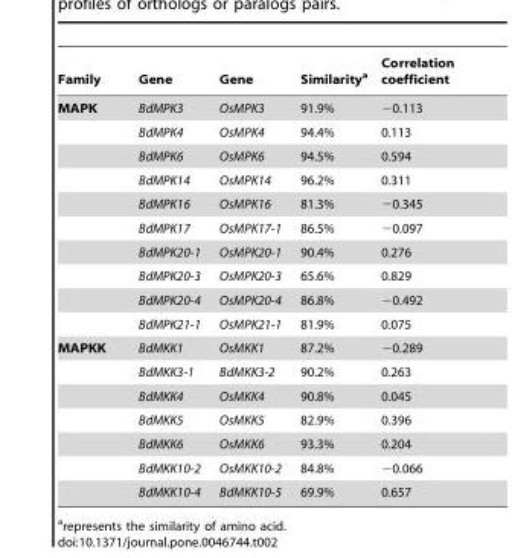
<table><thead><tr><td>Family</td><td>Gene</td><td>Gene</td><td>Similarity<sup>a</sup></td><td>Correlation coefficient</td></tr></thead><tbody><tr><td rowspan="10">MAPK</td><td>BdMPK3</td><td>OsMPK3</td><td>91.9%</td><td>−0.113</td></tr><tr><td>BdMPK4</td><td>OsMPK4</td><td>94.4%</td><td>0.113</td></tr><tr><td>BdMPK6</td><td>OsMPK6</td><td>94.5%</td><td>0.594</td></tr><tr><td>BdMPK14</td><td>OsMPK14</td><td>96.2%</td><td>0.311</td></tr><tr><td>BdMPK16</td><td>OsMPK16</td><td>81.3%</td><td>−0.345</td></tr><tr><td>BdMPK17</td><td>OsMPK17-1</td><td>86.5%</td><td>−0.097</td></tr><tr><td>BdMPK20-1</td><td>OsMPK20-1</td><td>90.4%</td><td>0.276</td></tr><tr><td>BdMPK20-3</td><td>OsMPK20-3</td><td>65.6%</td><td>0.829</td></tr><tr><td>BdMPK20-4</td><td>OsMPK20-4</td><td>86.8%</td><td>−0.492</td></tr><tr><td>BdMPK21-1</td><td>OsMPK21-1</td><td>81.9%</td><td>0.075</td></tr><tr><td rowspan="7">MAPKK</td><td>BdMKK1</td><td>OsMKK1</td><td>87.2%</td><td>−0.289</td></tr><tr><td>BdMKK3-1</td><td>BdMKK3-2</td><td>90.2%</td><td>0.263</td></tr><tr><td>BdMKK4</td><td>OsMKK4</td><td>90.8%</td><td>0.045</td></tr><tr><td>BdMKK5</td><td>OsMKK5</td><td>82.9%</td><td>0.396</td></tr><tr><td>BdMKK6</td><td>OsMKK6</td><td>93.3%</td><td>0.204</td></tr><tr><td>BdMKK10-2</td><td>OsMKK10-2</td><td>84.8%</td><td>−0.066</td></tr><tr><td>BdMKK10-4</td><td>BdMKK10-5</td><td>69.9%</td><td>0.657</td></tr></tbody></table>